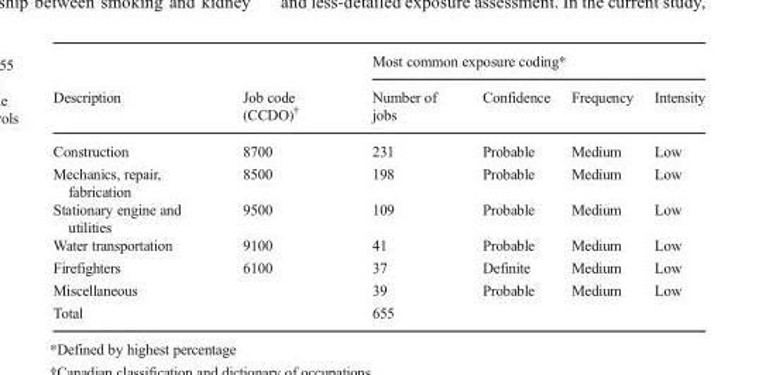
<table><thead><tr><td rowspan="2">Description</td><td rowspan="2">Job code (CCDO)<sup>†</sup></td><td colspan="4">Most common exposure coding*</td></tr><tr><td>Number of jobs</td><td>Confidence</td><td>Frequency</td><td>Intensity</td></tr></thead><tbody><tr><td>Construction</td><td>8700</td><td>231</td><td>Probable</td><td>Medium</td><td>Low</td></tr><tr><td>Mechanics, repair, fabrication</td><td>8500</td><td>198</td><td>Probable</td><td>Medium</td><td>Low</td></tr><tr><td>Stationary engine and utilities</td><td>9500</td><td>109</td><td>Probable</td><td>Medium</td><td>Low</td></tr><tr><td>Water transportation</td><td>9100</td><td>41</td><td>Probable</td><td>Medium</td><td>Low</td></tr><tr><td>Firefighters</td><td>6100</td><td>37</td><td>Definite</td><td>Medium</td><td>Low</td></tr><tr><td>Miscellaneous</td><td></td><td>39</td><td>Probable</td><td>Medium</td><td>Low</td></tr><tr><td>Total</td><td></td><td>655</td><td></td><td></td><td></td></tr></tbody></table>